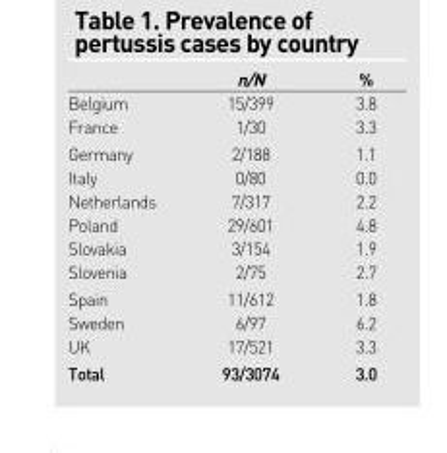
<table><thead><tr><td></td><td>n/N</td><td>%</td></tr></thead><tbody><tr><td>Belgium</td><td>15/399</td><td>3.8</td></tr><tr><td>France</td><td>1/30</td><td>3.3</td></tr><tr><td>Germany</td><td>2/188</td><td>1.1</td></tr><tr><td>Italy</td><td>0/80</td><td>0.0</td></tr><tr><td>Netherlands</td><td>7/317</td><td>2.2</td></tr><tr><td>Poland</td><td>29/601</td><td>4.8</td></tr><tr><td>Slovakia</td><td>3/154</td><td>1.9</td></tr><tr><td>Slovenia</td><td>2/75</td><td>2.7</td></tr><tr><td>Spain</td><td>11/612</td><td>1.8</td></tr><tr><td>Sweden</td><td>6/97</td><td>6.2</td></tr><tr><td>UK</td><td>17/521</td><td>3.3</td></tr><tr><td>Total</td><td>93/3074</td><td>3.0</td></tr></tbody></table>